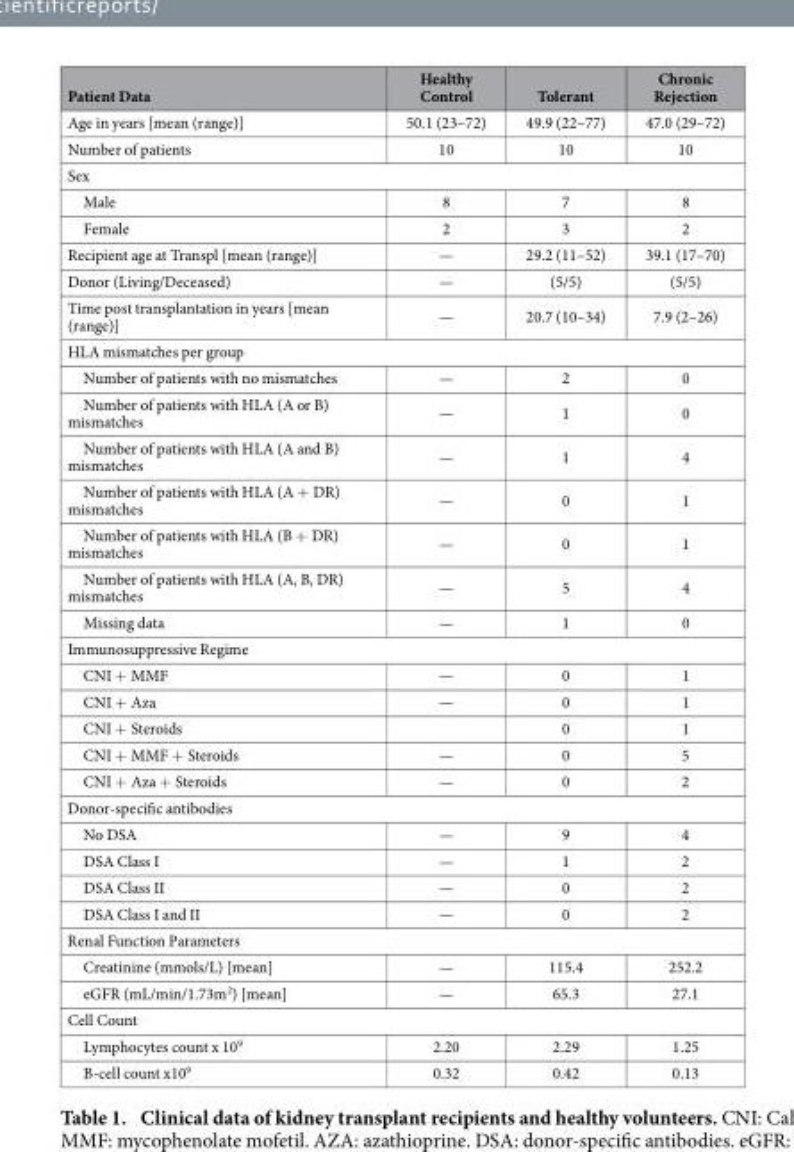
<table><thead><tr><td>Patient Data</td><td>Healthy Control</td><td>Tolerant</td><td>Chronic Rejection</td></tr></thead><tbody><tr><td>Age in years [mean (range)]</td><td>50.1 (23–72)</td><td>49.9 (22–77)</td><td>47.0 (29–72)</td></tr><tr><td>Number of patients</td><td>10</td><td>10</td><td>10</td></tr><tr><td colspan="4">Sex</td></tr><tr><td>Male</td><td>8</td><td>7</td><td>8</td></tr><tr><td>Female</td><td>2</td><td>3</td><td>2</td></tr><tr><td>Recipient age at Transpl [mean (range)]</td><td>—</td><td>29.2 (11–52)</td><td>39.1 (17–70)</td></tr><tr><td>Donor (Living/Deceased)</td><td>—</td><td>(5/5)</td><td>(5/5)</td></tr><tr><td>Time post transplantation in years [mean (range)]</td><td>—</td><td>20.7 (10–34)</td><td>7.9 (2–26)</td></tr><tr><td colspan="4">HLA mismatches per group</td></tr><tr><td>Number of patients with no mismatches</td><td>—</td><td>2</td><td>0</td></tr><tr><td>Number of patients with HLA (A or B) mismatches</td><td>—</td><td>1</td><td>0</td></tr><tr><td>Number of patients with HLA (A and B) mismatches</td><td>—</td><td>1</td><td>4</td></tr><tr><td>Number of patients with HLA (A + DR) mismatches</td><td>—</td><td>0</td><td>1</td></tr><tr><td>Number of patients with HLA (B + DR) mismatches</td><td>—</td><td>0</td><td>1</td></tr><tr><td>Number of patients with HLA (A, B, DR) mismatches</td><td>—</td><td>5</td><td>4</td></tr><tr><td>Missing data</td><td>—</td><td>1</td><td>0</td></tr><tr><td colspan="4">Immunosuppressive Regime</td></tr><tr><td>CNI + MMF</td><td>—</td><td>0</td><td>1</td></tr><tr><td>CNI + Aza</td><td>—</td><td>0</td><td>1</td></tr><tr><td>CNI + Steroids</td><td></td><td>0</td><td>1</td></tr><tr><td>CNI + MMF + Steroids</td><td>—</td><td>0</td><td>5</td></tr><tr><td>CNI + Aza + Steroids</td><td>—</td><td>0</td><td>2</td></tr><tr><td colspan="4">Donor-specific antibodies</td></tr><tr><td>No DSA</td><td>—</td><td>9</td><td>4</td></tr><tr><td>DSA Class I</td><td>—</td><td>1</td><td>2</td></tr><tr><td>DSA Class II</td><td>—</td><td>0</td><td>2</td></tr><tr><td>DSA Class I and II</td><td>—</td><td>0</td><td>2</td></tr><tr><td colspan="4">Renal Function Parameters</td></tr><tr><td>Creatinine (mmols/L) [mean]</td><td>—</td><td>115.4</td><td>252.2</td></tr><tr><td>eGFR (mL/min/1.73m<sup>2</sup>) [mean]</td><td>—</td><td>65.3</td><td>27.1</td></tr><tr><td colspan="4">Cell Count</td></tr><tr><td>Lymphocytes count x 10<sup>9</sup></td><td>2.20</td><td>2.29</td><td>1.25</td></tr><tr><td>B-cell count x10<sup>9</sup></td><td>0.32</td><td>0.42</td><td>0.13</td></tr></tbody></table>